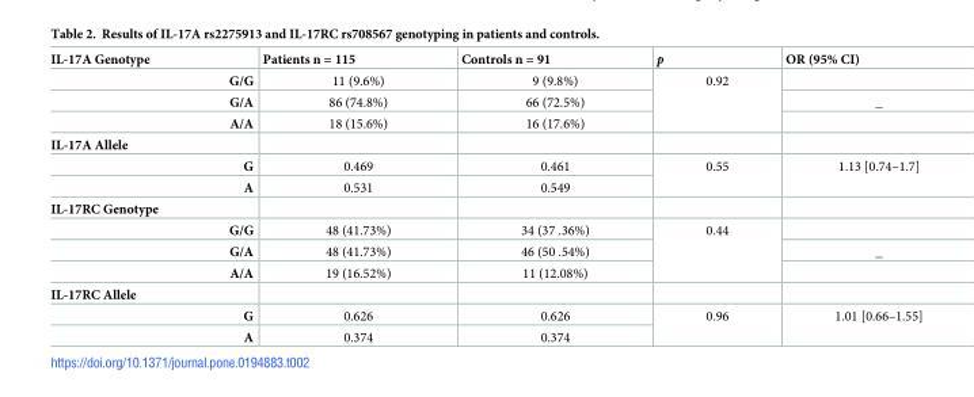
<table><thead><tr><td>IL-17A Genotype</td><td>Patients n = 115</td><td>Controls n = 91</td><td>p</td><td>OR (95% CI)</td></tr></thead><tbody><tr><td>G/G</td><td>11 (9.6%)</td><td>9 (9.8%)</td><td rowspan="3">0.92</td><td></td></tr><tr><td>G/A</td><td>86 (74.8%)</td><td>66 (72.5%)</td><td>_</td></tr><tr><td>A/A</td><td>18 (15.6%)</td><td>16 (17.6%)</td><td></td></tr><tr><td colspan="5">IL-17A Allele</td></tr><tr><td>G</td><td>0.469</td><td>0.461</td><td rowspan="2">0.55</td><td rowspan="2">1.13 [0.74–1.7]</td></tr><tr><td>A</td><td>0.531</td><td>0.549</td></tr><tr><td colspan="5">IL-17RC Genotype</td></tr><tr><td>G/G</td><td>48 (41.73%)</td><td>34 (37 .36%)</td><td rowspan="3">0.44</td><td></td></tr><tr><td>G/A</td><td>48 (41.73%)</td><td>46 (50 .54%)</td><td>_</td></tr><tr><td>A/A</td><td>19 (16.52%)</td><td>11 (12.08%)</td><td></td></tr><tr><td colspan="5">IL-17RC Allele</td></tr><tr><td>G</td><td>0.626</td><td>0.626</td><td rowspan="2">0.96</td><td rowspan="2">1.01 [0.66–1.55]</td></tr><tr><td>A</td><td>0.374</td><td>0.374</td></tr></tbody></table>